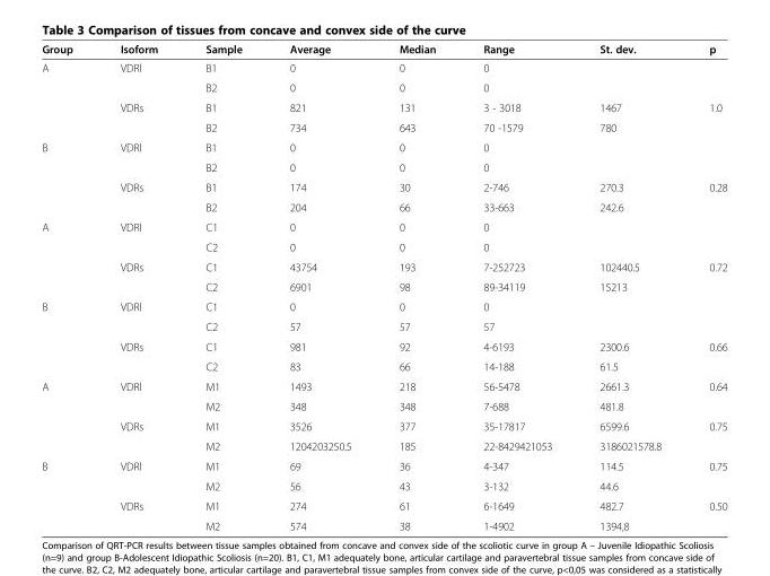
<table><thead><tr><td>Group</td><td>Isoform</td><td>Sample</td><td>Average</td><td>Median</td><td>Range</td><td>St. dev.</td><td>p</td></tr></thead><tbody><tr><td rowspan="4">A</td><td rowspan="2">VDRl</td><td>B1</td><td>0</td><td>0</td><td>0</td><td></td><td rowspan="2"></td></tr><tr><td>B2</td><td>0</td><td>0</td><td>0</td><td></td></tr><tr><td rowspan="2">VDRs</td><td>B1</td><td>821</td><td>131</td><td>3 - 3018</td><td>1467</td><td rowspan="2">1.0</td></tr><tr><td>B2</td><td>734</td><td>643</td><td>70 -1579</td><td>780</td></tr><tr><td rowspan="4">B</td><td rowspan="2">VDRl</td><td>B1</td><td>0</td><td>0</td><td>0</td><td></td><td rowspan="2"></td></tr><tr><td>B2</td><td>0</td><td>0</td><td>0</td><td></td></tr><tr><td rowspan="2">VDRs</td><td>B1</td><td>174</td><td>30</td><td>2-746</td><td>270.3</td><td rowspan="2">0.28</td></tr><tr><td>B2</td><td>204</td><td>66</td><td>33-663</td><td>242.6</td></tr><tr><td rowspan="4">A</td><td rowspan="2">VDRl</td><td>C1</td><td>0</td><td>0</td><td>0</td><td></td><td rowspan="2"></td></tr><tr><td>C2</td><td>0</td><td>0</td><td>0</td><td></td></tr><tr><td rowspan="2">VDRs</td><td>C1</td><td>43754</td><td>193</td><td>7-252723</td><td>102440.5</td><td rowspan="2">0.72</td></tr><tr><td>C2</td><td>6901</td><td>98</td><td>89-34119</td><td>15213</td></tr><tr><td rowspan="4">B</td><td rowspan="2">VDRl</td><td>C1</td><td>0</td><td>0</td><td>0</td><td></td><td rowspan="2"></td></tr><tr><td>C2</td><td>57</td><td>57</td><td>57</td><td></td></tr><tr><td rowspan="2">VDRs</td><td>C1</td><td>981</td><td>92</td><td>4-6193</td><td>2300.6</td><td rowspan="2">0.66</td></tr><tr><td>C2</td><td>83</td><td>66</td><td>14-188</td><td>61.5</td></tr><tr><td rowspan="4">A</td><td rowspan="2">VDRl</td><td>M1</td><td>1493</td><td>218</td><td>56-5478</td><td>2661.3</td><td rowspan="2">0.64</td></tr><tr><td>M2</td><td>348</td><td>348</td><td>7-688</td><td>481.8</td></tr><tr><td rowspan="2">VDRs</td><td>M1</td><td>3526</td><td>377</td><td>35-17817</td><td>6599.6</td><td rowspan="2">0.75</td></tr><tr><td>M2</td><td>1204203250.5</td><td>185</td><td>22-8429421053</td><td>3186021578.8</td></tr><tr><td rowspan="4">B</td><td rowspan="2">VDRl</td><td>M1</td><td>69</td><td>36</td><td>4-347</td><td>114.5</td><td rowspan="2">0.75</td></tr><tr><td>M2</td><td>56</td><td>43</td><td>3-132</td><td>44.6</td></tr><tr><td rowspan="2">VDRs</td><td>M1</td><td>274</td><td>61</td><td>6-1649</td><td>482.7</td><td rowspan="2">0.50</td></tr><tr><td>M2</td><td>574</td><td>38</td><td>1-4902</td><td>1394,8</td></tr></tbody></table>